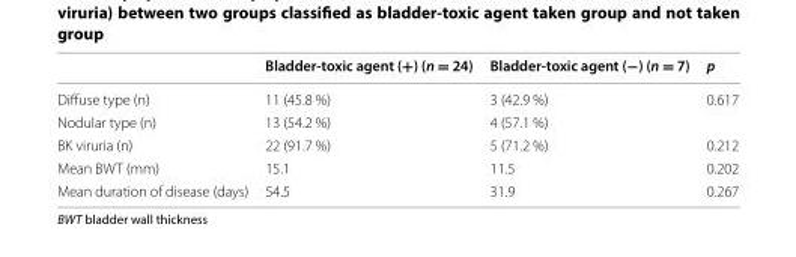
<table><thead><tr><td></td><td>Bladder-toxic agent (+) (n = 24)</td><td>Bladder-toxic agent (−) (n = 7)</td><td>p</td></tr></thead><tbody><tr><td>Diffuse type (n)</td><td>11 (45.8 %)</td><td>3 (42.9 %)</td><td rowspan="2">0.617</td></tr><tr><td>Nodular type (n)</td><td>13 (54.2 %)</td><td>4 (57.1 %)</td></tr><tr><td>BK viruria (n)</td><td>22 (91.7 %)</td><td>5 (71.2 %)</td><td>0.212</td></tr><tr><td>Mean BWT (mm)</td><td>15.1</td><td>11.5</td><td>0.202</td></tr><tr><td>Mean duration of disease (days)</td><td>54.5</td><td>31.9</td><td>0.267</td></tr></tbody></table>